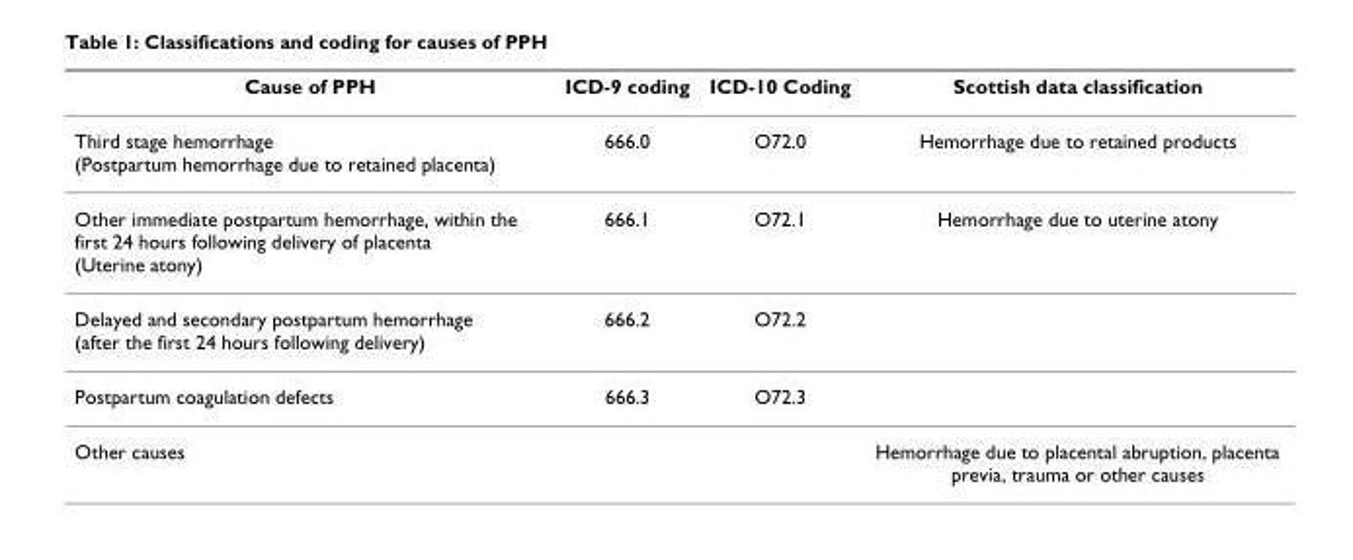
<table><thead><tr><td>Cause of PPH</td><td>ICD-9 coding</td><td>ICD-10 Coding</td><td>Scottish data classification</td></tr></thead><tbody><tr><td>Third stage hemorrhage (Postpartum hemorrhage due to retained placenta)</td><td>666.0</td><td>O72.0</td><td>Hemorrhage due to retained products</td></tr><tr><td>Other immediate postpartum hemorrhage, within the first 24 hours following delivery of placenta (Uterine atony)</td><td>666.1</td><td>O72.1</td><td>Hemorrhage due to uterine atony</td></tr><tr><td>Delayed and secondary postpartum hemorrhage (after the first 24 hours following delivery)</td><td>666.2</td><td>O72.2</td><td></td></tr><tr><td>Postpartum coagulation defects</td><td>666.3</td><td>O72.3</td><td></td></tr><tr><td>Other causes</td><td></td><td></td><td>Hemorrhage due to placental abruption, placenta previa, trauma or other causes</td></tr></tbody></table>